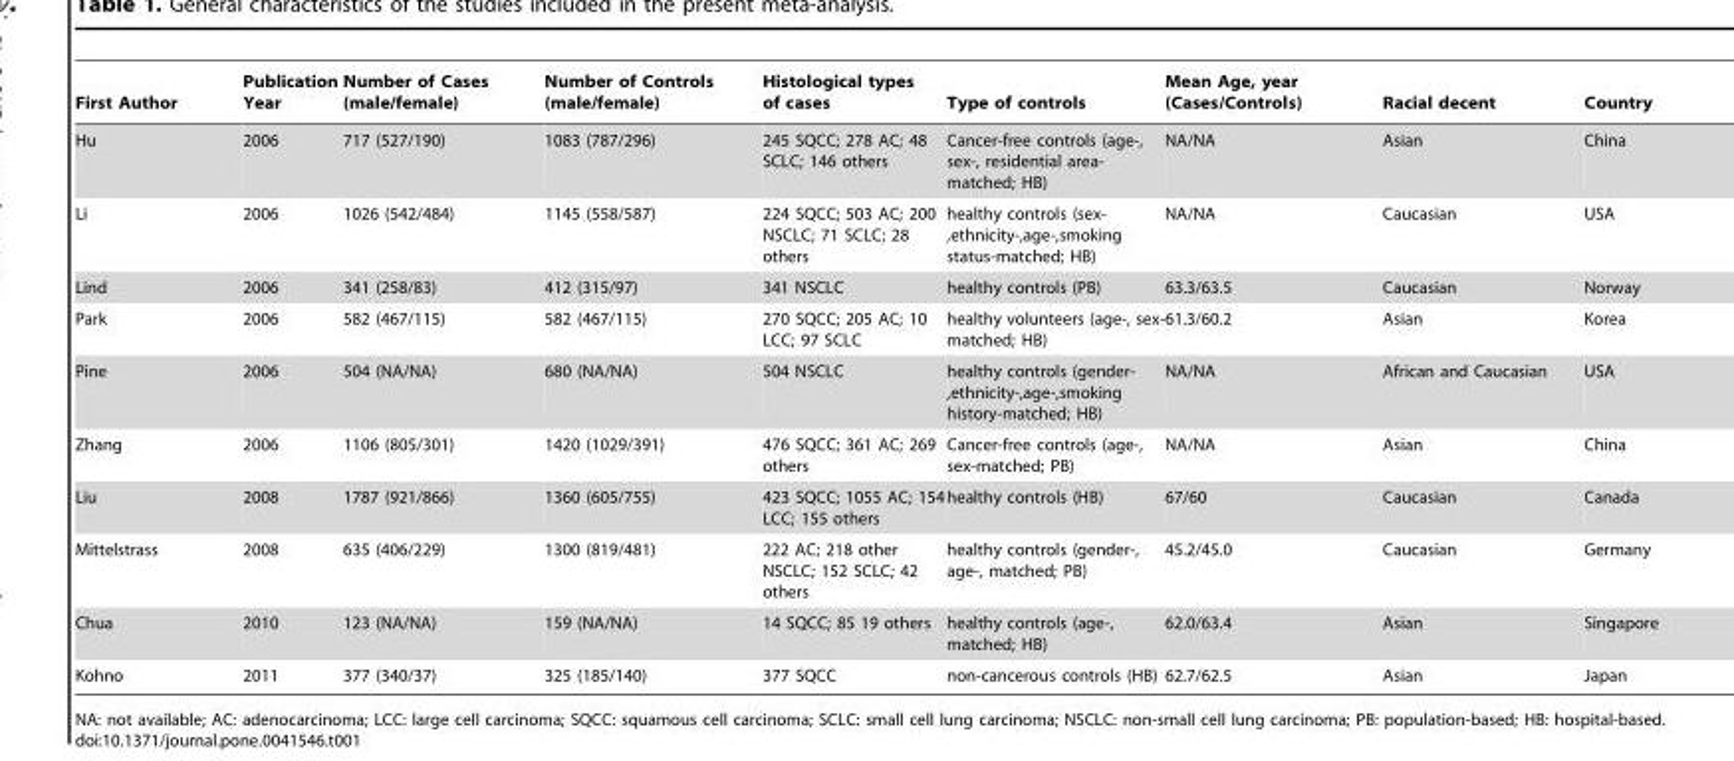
<table><thead><tr><td>First Author</td><td>Publication Year</td><td>Number of Cases (male/female)</td><td>Number of Controls (male/female)</td><td>Histological types of cases</td><td>Type of controls</td><td>Mean Age, year (Cases/Controls)</td><td>Racial decent</td><td>Country</td></tr></thead><tbody><tr><td>Hu</td><td>2006</td><td>717 (527/190)</td><td>1083 (787/296)</td><td>245 SQCC; 278 AC; 48 SCLC; 146 others</td><td>Cancer-free controls (age-, sex-, residential area- matched; HB)</td><td>NA/NA</td><td>Asian</td><td>China</td></tr><tr><td>Li</td><td>2006</td><td>1026 (542/484)</td><td>1145 (558/587)</td><td>224 SQCC; 503 AC; 200 NSCLC; 71 SCLC; 28 others</td><td>healthy controls (sex- ,ethnicity-,age-,smoking status-matched; HB)</td><td>NA/NA</td><td>Caucasian</td><td>USA</td></tr><tr><td>Lind</td><td>2006</td><td>341 (258/83)</td><td>412 (315/97)</td><td>341 NSCLC</td><td>healthy controls (PB)</td><td>63.3/63.5</td><td>Caucasian</td><td>Norway</td></tr><tr><td>Park</td><td>2006</td><td>582 (467/115)</td><td>582 (467/115)</td><td>270 SQCC; 205 AC; 10 LCC; 97 SCLC</td><td>healthy volunteers (age-, sex- matched; HB)</td><td>61.3/60.2</td><td>Asian</td><td>Korea</td></tr><tr><td>Pine</td><td>2006</td><td>504 (NA/NA)</td><td>680 (NA/NA)</td><td>504 NSCLC</td><td>healthy controls (gender- ,ethnicity-,age-,smoking history-matched; HB)</td><td>NA/NA</td><td>African and Caucasian</td><td>USA</td></tr><tr><td>Zhang</td><td>2006</td><td>1106 (805/301)</td><td>1420 (1029/391)</td><td>476 SQCC; 361 AC; 269 others</td><td>Cancer-free controls (age-, sex-matched; PB)</td><td>NA/NA</td><td>Asian</td><td>China</td></tr><tr><td>Liu</td><td>2008</td><td>1787 (921/866)</td><td>1360 (605/755)</td><td>423 SQCC; 1055 AC; 154 LCC; 155 others</td><td>healthy controls (HB)</td><td>67/60</td><td>Caucasian</td><td>Canada</td></tr><tr><td>Mittelstrass</td><td>2008</td><td>635 (406/229)</td><td>1300 (819/481)</td><td>222 AC; 218 other NSCLC; 152 SCLC; 42 others</td><td>healthy controls (gender-, age-, matched; PB)</td><td>45.2/45.0</td><td>Caucasian</td><td>Germany</td></tr><tr><td>Chua</td><td>2010</td><td>123 (NA/NA)</td><td>159 (NA/NA)</td><td>14 SQCC; 85 19 others</td><td>healthy controls (age-, matched; HB)</td><td>62.0/63.4</td><td>Asian</td><td>Singapore</td></tr><tr><td>Kohno</td><td>2011</td><td>377 (340/37)</td><td>325 (185/140)</td><td>377 SQCC</td><td>non-cancerous controls (HB)</td><td>62.7/62.5</td><td>Asian</td><td>Japan</td></tr></tbody></table>